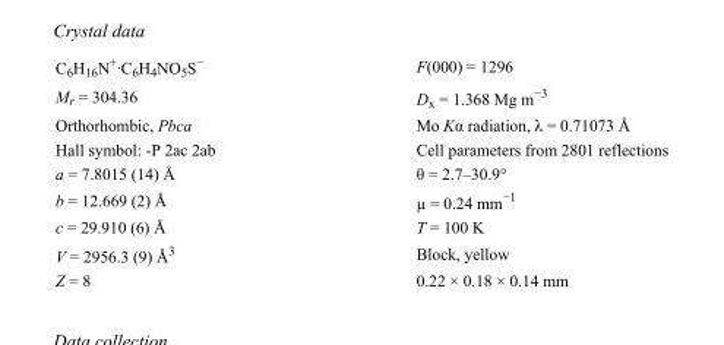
<table><tbody><tr><td>C<sub>6</sub>H<sub>16</sub>N<sup>+</sup>·C<sub>6</sub>H<sub>4</sub>NO<sub>5</sub>S<sup>−</sup></td><td>F(000) = 1296</td></tr><tr><td>M<sub>r</sub> = 304.36</td><td>D<sub>x</sub> = 1.368 Mg m<sup>−3</sup></td></tr><tr><td>Orthorhombic, Pbca</td><td>Mo Kα radiation, λ = 0.71073 Å</td></tr><tr><td>Hall symbol: -P 2ac 2ab</td><td>Cell parameters from 2801 reflections</td></tr><tr><td>a = 7.8015 (14) Å</td><td>θ = 2.7–30.9°</td></tr><tr><td>b = 12.669 (2) Å</td><td>µ = 0.24 mm<sup>−1</sup></td></tr><tr><td>c = 29.910 (6) Å</td><td>T = 100 K</td></tr><tr><td>V = 2956.3 (9) Å<sup>3</sup></td><td>Block, yellow</td></tr><tr><td>Z = 8</td><td>0.22 × 0.18 × 0.14 mm</td></tr></tbody></table>